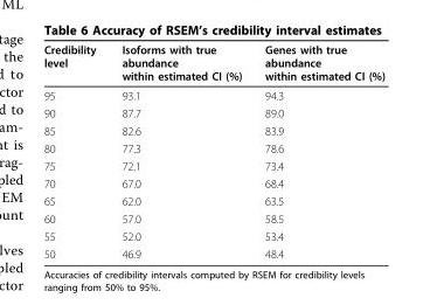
<table><thead><tr><td>Credibility level</td><td>Isoforms with true abundance within estimated CI (%)</td><td>Genes with true abundance within estimated CI (%)</td></tr></thead><tbody><tr><td>95</td><td>93.1</td><td>94.3</td></tr><tr><td>90</td><td>87.7</td><td>89.0</td></tr><tr><td>85</td><td>82.6</td><td>83.9</td></tr><tr><td>80</td><td>77.3</td><td>78.6</td></tr><tr><td>75</td><td>72.1</td><td>73.4</td></tr><tr><td>70</td><td>67.0</td><td>68.4</td></tr><tr><td>65</td><td>62.0</td><td>63.5</td></tr><tr><td>60</td><td>57.0</td><td>58.5</td></tr><tr><td>55</td><td>52.0</td><td>53.4</td></tr><tr><td>50</td><td>46.9</td><td>48.4</td></tr></tbody></table>